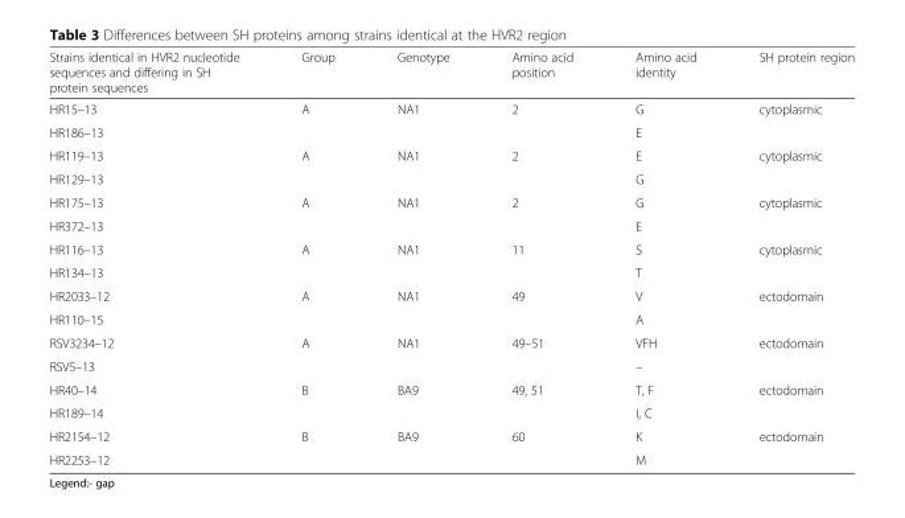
<table><thead><tr><td>Strains identical in HVR2 nucleotide sequences and differing in SH protein sequences</td><td>Group</td><td>Genotype</td><td>Amino acid position</td><td>Amino acid identity</td><td>SH protein region</td></tr></thead><tbody><tr><td>HR15–13</td><td rowspan="2">A</td><td rowspan="2">NA1</td><td rowspan="2">2</td><td>G</td><td rowspan="2">cytoplasmic</td></tr><tr><td>HR186–13</td><td>E</td></tr><tr><td>HR119–13</td><td rowspan="2">A</td><td rowspan="2">NA1</td><td rowspan="2">2</td><td>E</td><td rowspan="2">cytoplasmic</td></tr><tr><td>HR129–13</td><td>G</td></tr><tr><td>HR175–13</td><td rowspan="2">A</td><td rowspan="2">NA1</td><td rowspan="2">2</td><td>G</td><td rowspan="2">cytoplasmic</td></tr><tr><td>HR372–13</td><td>E</td></tr><tr><td>HR116–13</td><td rowspan="2">A</td><td rowspan="2">NA1</td><td rowspan="2">11</td><td>S</td><td rowspan="2">cytoplasmic</td></tr><tr><td>HR134–13</td><td>T</td></tr><tr><td>HR2033–12</td><td rowspan="2">A</td><td rowspan="2">NA1</td><td rowspan="2">49</td><td>V</td><td rowspan="2">ectodomain</td></tr><tr><td>HR110–15</td><td>A</td></tr><tr><td>RSV3234–12</td><td rowspan="2">A</td><td rowspan="2">NA1</td><td rowspan="2">49–51</td><td>VFH</td><td rowspan="2">ectodomain</td></tr><tr><td>RSV5–13</td><td>–</td></tr><tr><td>HR40–14</td><td rowspan="2">B</td><td rowspan="2">BA9</td><td rowspan="2">49, 51</td><td>T, F</td><td rowspan="2">ectodomain</td></tr><tr><td>HR189–14</td><td>I, C</td></tr><tr><td>HR2154–12</td><td rowspan="2">B</td><td rowspan="2">BA9</td><td rowspan="2">60</td><td>K</td><td rowspan="2">ectodomain</td></tr><tr><td>HR2253–12</td><td>M</td></tr></tbody></table>